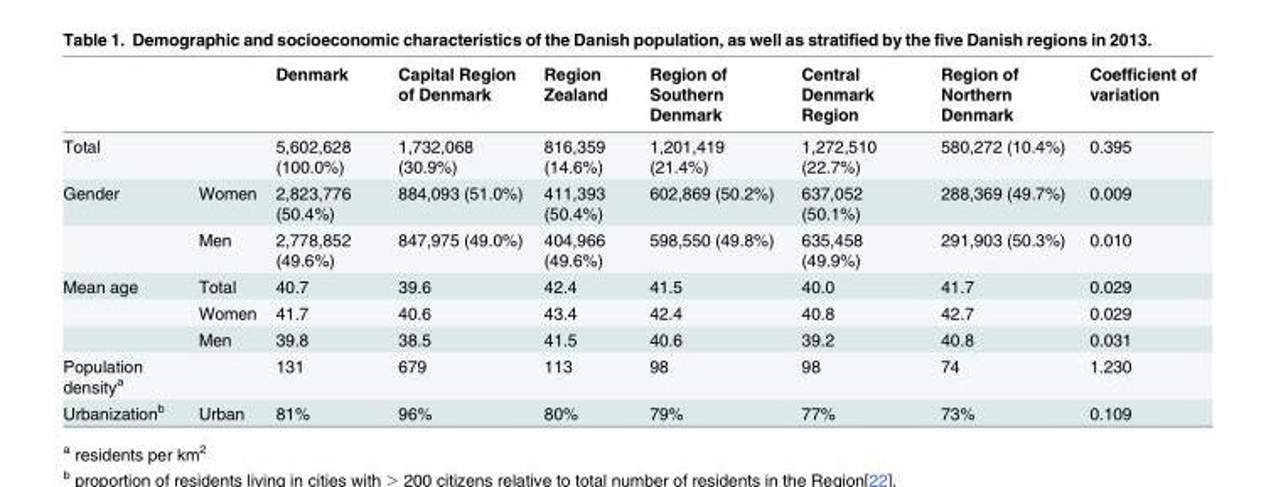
<table><thead><tr><td></td><td></td><td>Denmark</td><td>Capital Region of Denmark</td><td>Region Zealand</td><td>Region of Southern Denmark</td><td>Central Denmark Region</td><td>Region of Northern Denmark</td><td>Coefficient of variation</td></tr></thead><tbody><tr><td>Total</td><td></td><td>5,602,628 (100.0%)</td><td>1,732,068 (30.9%)</td><td>816,359 (14.6%)</td><td>1,201,419 (21.4%)</td><td>1,272,510 (22.7%)</td><td>580,272 (10.4%)</td><td>0.395</td></tr><tr><td rowspan="2">Gender</td><td>Women</td><td>2,823,776 (50.4%)</td><td>884,093 (51.0%)</td><td>411,393 (50.4%)</td><td>602,869 (50.2%)</td><td>637,052 (50.1%)</td><td>288,369 (49.7%)</td><td>0.009</td></tr><tr><td>Men</td><td>2,778,852 (49.6%)</td><td>847,975 (49.0%)</td><td>404,966 (49.6%)</td><td>598,550 (49.8%)</td><td>635,458 (49.9%)</td><td>291,903 (50.3%)</td><td>0.010</td></tr><tr><td rowspan="3">Mean age</td><td>Total</td><td>40.7</td><td>39.6</td><td>42.4</td><td>41.5</td><td>40.0</td><td>41.7</td><td>0.029</td></tr><tr><td>Women</td><td>41.7</td><td>40.6</td><td>43.4</td><td>42.4</td><td>40.8</td><td>42.7</td><td>0.029</td></tr><tr><td>Men</td><td>39.8</td><td>38.5</td><td>41.5</td><td>40.6</td><td>39.2</td><td>40.8</td><td>0.031</td></tr><tr><td>Population density<sup>a</sup></td><td></td><td>131</td><td>679</td><td>113</td><td>98</td><td>98</td><td>74</td><td>1.230</td></tr><tr><td>Urbanization<sup>b</sup></td><td>Urban</td><td>81%</td><td>96%</td><td>80%</td><td>79%</td><td>77%</td><td>73%</td><td>0.109</td></tr></tbody></table>